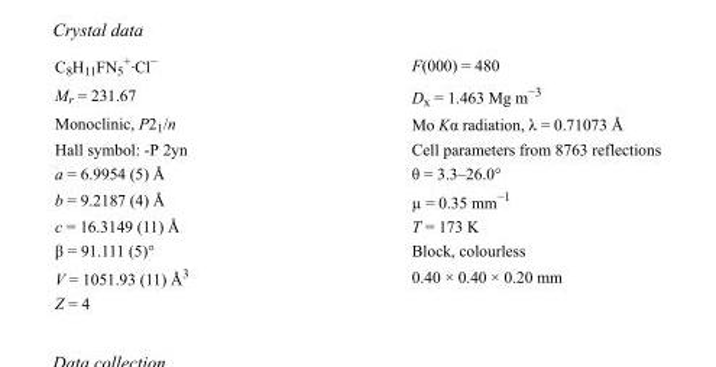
<table><tbody><tr><td>C<sub>8</sub>H<sub>11</sub>FN<sub>5</sub> <sup>+</sup>·Cl<sup>−</sup></td><td>F(000) = 480</td></tr><tr><td>M<sub>r</sub> = 231.67</td><td>D<sub>x</sub> = 1.463 Mg m<sup>−3</sup></td></tr><tr><td>Monoclinic, P2<sub>1</sub>/n</td><td>Mo Kα radiation, λ = 0.71073 Å</td></tr><tr><td>Hall symbol: -P 2yn</td><td>Cell parameters from 8763 reflections</td></tr><tr><td>a = 6.9954 (5) Å</td><td>θ = 3.3–26.0°</td></tr><tr><td>b = 9.2187 (4) Å</td><td>µ = 0.35 mm<sup>−1</sup></td></tr><tr><td>c = 16.3149 (11) Å</td><td>T = 173 K</td></tr><tr><td>β = 91.111 (5)°</td><td>Block, colourless</td></tr><tr><td>V = 1051.93 (11) Å<sup>3</sup></td><td>0.40 × 0.40 × 0.20 mm</td></tr><tr><td>Z = 4</td><td></td></tr></tbody></table>